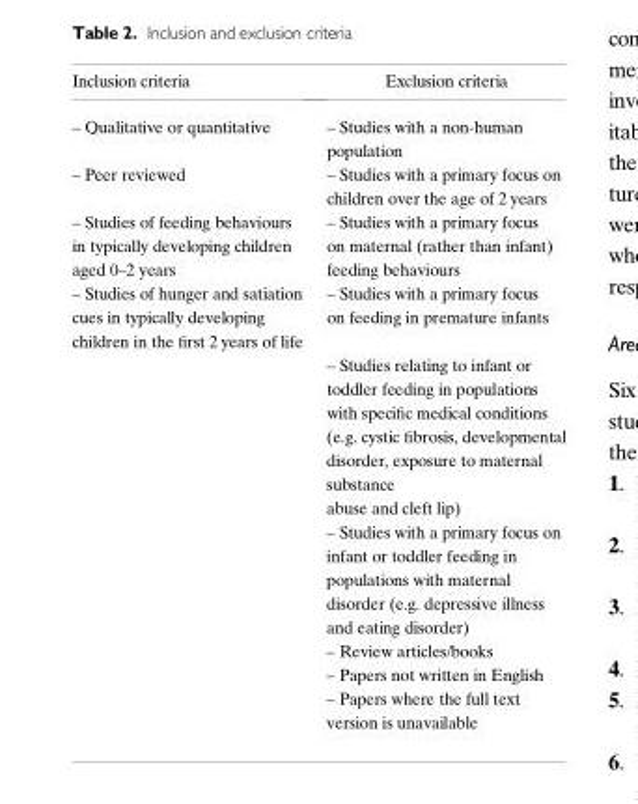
<table><thead><tr><td>Inclusion criteria</td><td>Exclusion criteria</td></tr></thead><tbody><tr><td>– Qualitative or quantitative</td><td>– Studies with a non-human population</td></tr><tr><td>– Peer reviewed</td><td>– Studies with a primary focus on children over the age of 2 years</td></tr><tr><td>– Studies of feeding behaviours in typically developing children aged 0–2 years</td><td>– Studies with a primary focus on maternal (rather than infant) feeding behaviours</td></tr><tr><td rowspan="6">– Studies of hunger and satiation cues in typically developing children in the first 2 years of life</td><td>– Studies with a primary focus on feeding in premature infants</td></tr><tr><td>– Studies relating to infant or toddler feeding in populations with specific medical conditions (e.g. cystic fibrosis, developmental disorder, exposure to maternal substance abuse and cleft lip)</td></tr><tr><td>– Studies with a primary focus on infant or toddler feeding in populations with maternal disorder (e.g. depressive illness and eating disorder)</td></tr><tr><td>– Review articles/books</td></tr><tr><td>– Papers not written in English</td></tr><tr><td>– Papers where the full text version is unavailable</td></tr></tbody></table>